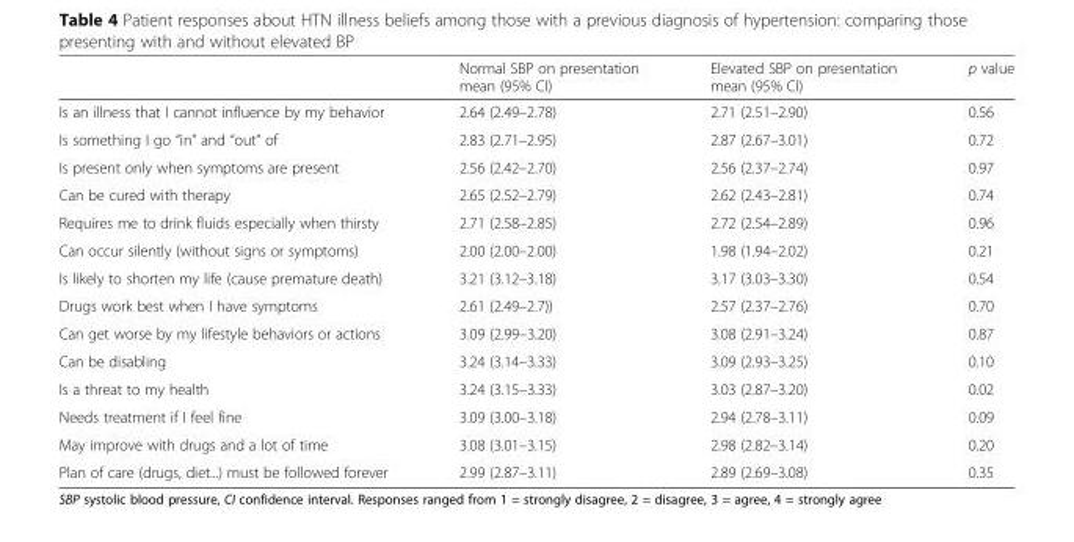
<table><thead><tr><td></td><td>Normal SBP on presentation mean (95% CI)</td><td>Elevated SBP on presentation mean (95% CI)</td><td>p value</td></tr></thead><tbody><tr><td>Is an illness that I cannot influence by my behavior</td><td>2.64 (2.49–2.78)</td><td>2.71 (2.51–2.90)</td><td>0.56</td></tr><tr><td>Is something I go “in” and “out” of</td><td>2.83 (2.71–2.95)</td><td>2.87 (2.67–3.01)</td><td>0.72</td></tr><tr><td>Is present only when symptoms are present</td><td>2.56 (2.42–2.70)</td><td>2.56 (2.37–2.74)</td><td>0.97</td></tr><tr><td>Can be cured with therapy</td><td>2.65 (2.52–2.79)</td><td>2.62 (2.43–2.81)</td><td>0.74</td></tr><tr><td>Requires me to drink fluids especially when thirsty</td><td>2.71 (2.58–2.85)</td><td>2.72 (2.54–2.89)</td><td>0.96</td></tr><tr><td>Can occur silently (without signs or symptoms)</td><td>2.00 (2.00–2.00)</td><td>1.98 (1.94–2.02)</td><td>0.21</td></tr><tr><td>Is likely to shorten my life (cause premature death)</td><td>3.21 (3.12–3.18)</td><td>3.17 (3.03–3.30)</td><td>0.54</td></tr><tr><td>Drugs work best when I have symptoms</td><td>2.61 (2.49–2.7))</td><td>2.57 (2.37–2.76)</td><td>0.70</td></tr><tr><td>Can get worse by my lifestyle behaviors or actions</td><td>3.09 (2.99–3.20)</td><td>3.08 (2.91–3.24)</td><td>0.87</td></tr><tr><td>Can be disabling</td><td>3.24 (3.14–3.33)</td><td>3.09 (2.93–3.25)</td><td>0.10</td></tr><tr><td>Is a threat to my health</td><td>3.24 (3.15–3.33)</td><td>3.03 (2.87–3.20)</td><td>0.02</td></tr><tr><td>Needs treatment if I feel fine</td><td>3.09 (3.00–3.18)</td><td>2.94 (2.78–3.11)</td><td>0.09</td></tr><tr><td>May improve with drugs and a lot of time</td><td>3.08 (3.01–3.15)</td><td>2.98 (2.82–3.14)</td><td>0.20</td></tr><tr><td>Plan of care (drugs, diet...) must be followed forever</td><td>2.99 (2.87–3.11)</td><td>2.89 (2.69–3.08)</td><td>0.35</td></tr></tbody></table>